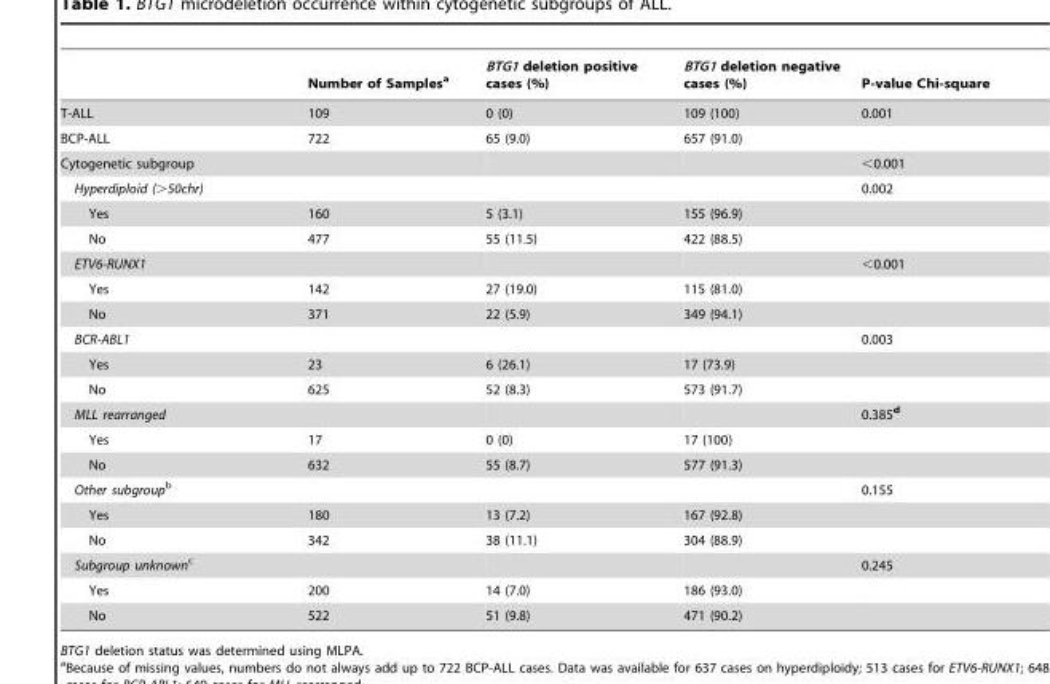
<table><thead><tr><td></td><td>Number of Samples<sup>a</sup></td><td>BTG1 deletion positive cases (%)</td><td>BTG1 deletion negative cases (%)</td><td>P-value Chi-square</td></tr></thead><tbody><tr><td>T-ALL</td><td>109</td><td>0 (0)</td><td>109 (100)</td><td>0.001</td></tr><tr><td>BCP-ALL</td><td>722</td><td>65 (9.0)</td><td>657 (91.0)</td><td></td></tr><tr><td>Cytogenetic subgroup</td><td></td><td></td><td></td><td>&lt;0.001</td></tr><tr><td>Hyperdiploid (&gt;50chr)</td><td></td><td></td><td></td><td>0.002</td></tr><tr><td>Yes</td><td>160</td><td>5 (3.1)</td><td>155 (96.9)</td><td></td></tr><tr><td>No</td><td>477</td><td>55 (11.5)</td><td>422 (88.5)</td><td></td></tr><tr><td>ETV6-RUNX1</td><td></td><td></td><td></td><td>&lt;0.001</td></tr><tr><td>Yes</td><td>142</td><td>27 (19.0)</td><td>115 (81.0)</td><td></td></tr><tr><td>No</td><td>371</td><td>22 (5.9)</td><td>349 (94.1)</td><td></td></tr><tr><td>BCR-ABL1</td><td></td><td></td><td></td><td>0.003</td></tr><tr><td>Yes</td><td>23</td><td>6 (26.1)</td><td>17 (73.9)</td><td></td></tr><tr><td>No</td><td>625</td><td>52 (8.3)</td><td>573 (91.7)</td><td></td></tr><tr><td>MLL rearranged</td><td></td><td></td><td></td><td>0.385<sup>d</sup></td></tr><tr><td>Yes</td><td>17</td><td>0 (0)</td><td>17 (100)</td><td></td></tr><tr><td>No</td><td>632</td><td>55 (8.7)</td><td>577 (91.3)</td><td></td></tr><tr><td>Other subgroupb</td><td></td><td></td><td></td><td>0.155</td></tr><tr><td>Yes</td><td>180</td><td>13 (7.2)</td><td>167 (92.8)</td><td></td></tr><tr><td>No</td><td>342</td><td>38 (11.1)</td><td>304 (88.9)</td><td></td></tr><tr><td>Subgroup unknownc</td><td></td><td></td><td></td><td>0.245</td></tr><tr><td>Yes</td><td>200</td><td>14 (7.0)</td><td>186 (93.0)</td><td></td></tr><tr><td>No</td><td>522</td><td>51 (9.8)</td><td>471 (90.2)</td><td></td></tr></tbody></table>